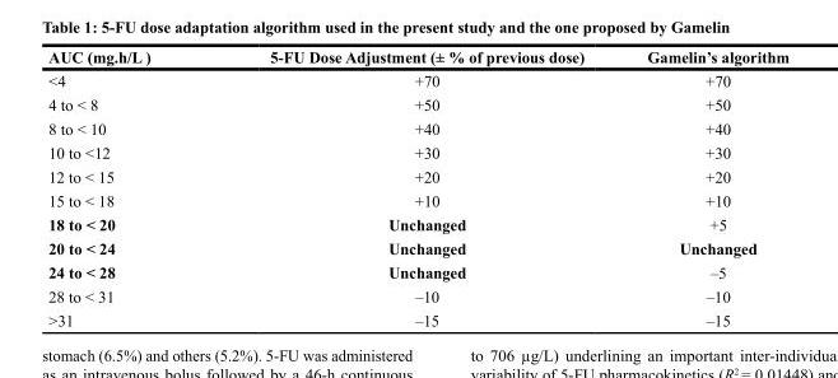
<table><thead><tr><td>AUC (mg.h/L )</td><td>5-FU Dose Adjustment (± % of previous dose)</td><td>Gamelin’s algorithm</td></tr></thead><tbody><tr><td>&lt;4</td><td>+70</td><td>+70</td></tr><tr><td>4 to &lt; 8</td><td>+50</td><td>+50</td></tr><tr><td>8 to &lt; 10</td><td>+40</td><td>+40</td></tr><tr><td>10 to &lt;12</td><td>+30</td><td>+30</td></tr><tr><td>12 to &lt; 15</td><td>+20</td><td>+20</td></tr><tr><td>15 to &lt; 18</td><td>+10</td><td>+10</td></tr><tr><td>18 to &lt; 20</td><td>Unchanged</td><td>+5</td></tr><tr><td>20 to &lt; 24</td><td>Unchanged</td><td>Unchanged</td></tr><tr><td>24 to &lt; 28</td><td>Unchanged</td><td>–5</td></tr><tr><td>28 to &lt; 31</td><td>–10</td><td>–10</td></tr><tr><td>&gt;31</td><td>–15</td><td>–15</td></tr></tbody></table>